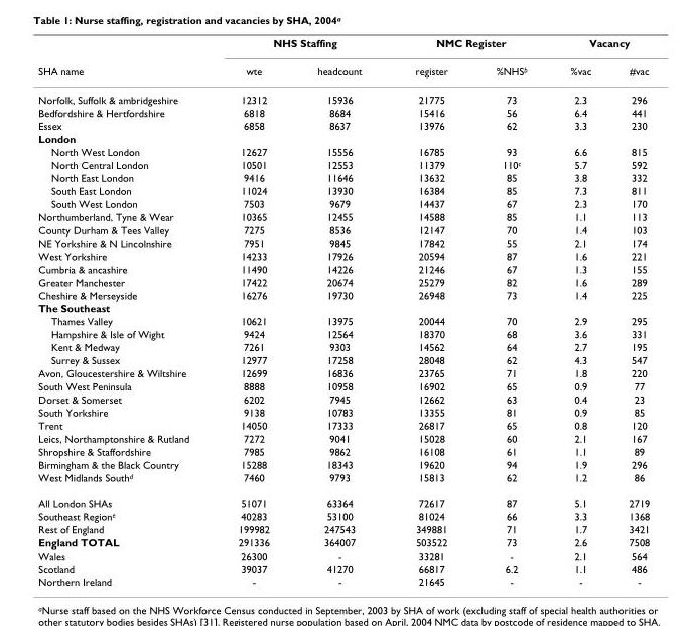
<table><thead><tr><td rowspan="2">SHA name</td><td colspan="2">NHS Staffing</td><td colspan="2">NMC Register</td><td colspan="2">Vacancy</td></tr><tr><td>wte</td><td>headcount</td><td>register</td><td>%NHS<sup>b</sup></td><td>%vac</td><td>#vac</td></tr></thead><tbody><tr><td>Norfolk, Suffolk &amp; ambridgeshire</td><td>12312</td><td>15936</td><td>21775</td><td>73</td><td>2.3</td><td>296</td></tr><tr><td>Bedfordshire &amp; Hertfordshire</td><td>6818</td><td>8684</td><td>15416</td><td>56</td><td>6.4</td><td>441</td></tr><tr><td>Essex</td><td>6858</td><td>8637</td><td>13976</td><td>62</td><td>3.3</td><td>230</td></tr><tr><td colspan="7">London</td></tr><tr><td>North West London</td><td>12627</td><td>15556</td><td>16785</td><td>93</td><td>6.6</td><td>815</td></tr><tr><td>North Central London</td><td>10501</td><td>12553</td><td>11379</td><td>110<sup>c</sup></td><td>5.7</td><td>592</td></tr><tr><td>North East London</td><td>9416</td><td>11646</td><td>13632</td><td>85</td><td>3.8</td><td>332</td></tr><tr><td>South East London</td><td>11024</td><td>13930</td><td>16384</td><td>85</td><td>7.3</td><td>811</td></tr><tr><td>South West London</td><td>7503</td><td>9679</td><td>14437</td><td>67</td><td>2.3</td><td>170</td></tr><tr><td>Northumberland, Tyne &amp; Wear</td><td>10365</td><td>12455</td><td>14588</td><td>85</td><td>1.1</td><td>113</td></tr><tr><td>County Durham &amp; Tees Valley</td><td>7275</td><td>8536</td><td>12147</td><td>70</td><td>1.4</td><td>103</td></tr><tr><td>NE Yorkshire &amp; N Lincolnshire</td><td>7951</td><td>9845</td><td>17842</td><td>55</td><td>2.1</td><td>174</td></tr><tr><td>West Yorkshire</td><td>14233</td><td>17926</td><td>20594</td><td>87</td><td>1.6</td><td>221</td></tr><tr><td>Cumbria &amp; ancashire</td><td>11490</td><td>14226</td><td>21246</td><td>67</td><td>1.3</td><td>155</td></tr><tr><td>Greater Manchester</td><td>17422</td><td>20674</td><td>25279</td><td>82</td><td>1.6</td><td>289</td></tr><tr><td>Cheshire &amp; Merseyside</td><td>16276</td><td>19730</td><td>26948</td><td>73</td><td>1.4</td><td>225</td></tr><tr><td colspan="7">The Southeast</td></tr><tr><td>Thames Valley</td><td>10621</td><td>13975</td><td>20044</td><td>70</td><td>2.9</td><td>295</td></tr><tr><td>Hampshire &amp; Isle of Wight</td><td>9424</td><td>12564</td><td>18370</td><td>68</td><td>3.6</td><td>331</td></tr><tr><td>Kent &amp; Medway</td><td>7261</td><td>9303</td><td>14562</td><td>64</td><td>2.7</td><td>195</td></tr><tr><td>Surrey &amp; Sussex</td><td>12977</td><td>17258</td><td>28048</td><td>62</td><td>4.3</td><td>547</td></tr><tr><td>Avon, Gloucestershire &amp; Wiltshire</td><td>12699</td><td>16836</td><td>23765</td><td>71</td><td>1.8</td><td>220</td></tr><tr><td>South West Peninsula</td><td>8888</td><td>10958</td><td>16902</td><td>65</td><td>0.9</td><td>77</td></tr><tr><td>Dorset &amp; Somerset</td><td>6202</td><td>7945</td><td>12662</td><td>63</td><td>0.4</td><td>23</td></tr><tr><td>South Yorkshire</td><td>9138</td><td>10783</td><td>13355</td><td>81</td><td>0.9</td><td>85</td></tr><tr><td>Trent</td><td>14050</td><td>17333</td><td>26817</td><td>65</td><td>0.8</td><td>120</td></tr><tr><td>Leics, Northamptonshire &amp; Rutland</td><td>7272</td><td>9041</td><td>15028</td><td>60</td><td>2.1</td><td>167</td></tr><tr><td>Shropshire &amp; Staffordshire</td><td>7985</td><td>9862</td><td>16108</td><td>61</td><td>1.1</td><td>89</td></tr><tr><td>Birmingham &amp; the Black Country</td><td>15288</td><td>18343</td><td>19620</td><td>94</td><td>1.9</td><td>296</td></tr><tr><td>West Midlands South<sup>d</sup></td><td>7460</td><td>9793</td><td>15813</td><td>62</td><td>1.2</td><td>86</td></tr><tr><td>All London SHAs</td><td>51071</td><td>63364</td><td>72617</td><td>87</td><td>5.1</td><td>2719</td></tr><tr><td>Southeast Region<sup>e</sup></td><td>40283</td><td>53100</td><td>81024</td><td>66</td><td>3.3</td><td>1368</td></tr><tr><td>Rest of England</td><td>199982</td><td>247543</td><td>349881</td><td>71</td><td>1.7</td><td>3421</td></tr><tr><td>England TOTAL</td><td>291336</td><td>364007</td><td>503522</td><td>73</td><td>2.6</td><td>7508</td></tr><tr><td>Wales</td><td>26300</td><td>-</td><td>33281</td><td>-</td><td>2.1</td><td>564</td></tr><tr><td>Scotland</td><td>39037</td><td>41270</td><td>66817</td><td>6.2</td><td>1.1</td><td>486</td></tr><tr><td>Northern Ireland</td><td>-</td><td>-</td><td>21645</td><td>-</td><td>-</td><td>-</td></tr></tbody></table>